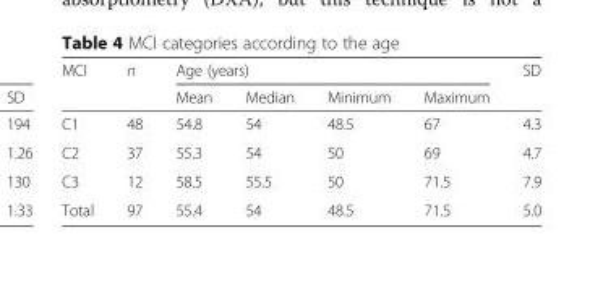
<table><thead><tr><td rowspan="2">MCI</td><td rowspan="2">n</td><td colspan="4">Age (years)</td><td rowspan="2">SD</td></tr><tr><td>Mean</td><td>Median</td><td>Minimum</td><td>Maximum</td></tr></thead><tbody><tr><td>C1</td><td>48</td><td>54.8</td><td>54</td><td>48.5</td><td>67</td><td>4.3</td></tr><tr><td>C2</td><td>37</td><td>55.3</td><td>54</td><td>50</td><td>69</td><td>4.7</td></tr><tr><td>C3</td><td>12</td><td>58.5</td><td>55.5</td><td>50</td><td>71.5</td><td>7.9</td></tr><tr><td>Total</td><td>97</td><td>55.4</td><td>54</td><td>48.5</td><td>71.5</td><td>5.0</td></tr></tbody></table>